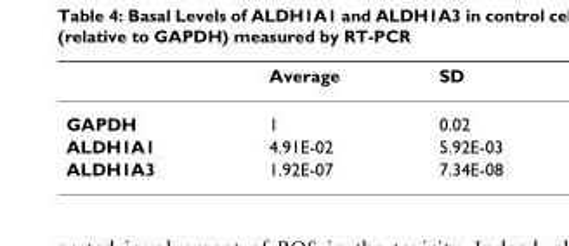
<table><thead><tr><td></td><td>Average</td><td>SD</td></tr></thead><tbody><tr><td>GAPDH</td><td>1</td><td>0.02</td></tr><tr><td>ALDH1A1</td><td>4.91E-02</td><td>5.92E-03</td></tr><tr><td>ALDH1A3</td><td>1.92E-07</td><td>7.34E-08</td></tr></tbody></table>